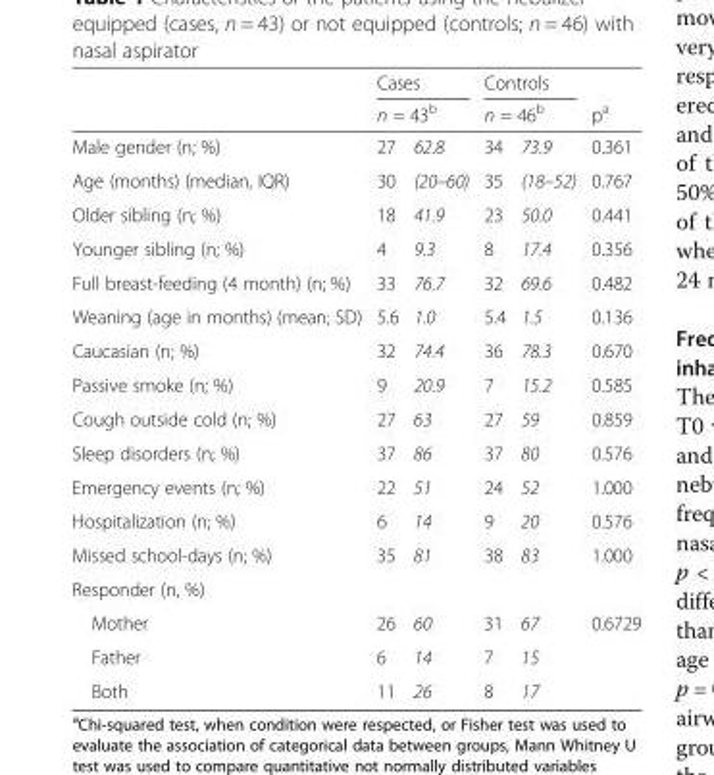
<table><thead><tr><td rowspan="3">Male gender (n; %)</td><td rowspan="2" colspan="2">Cases n = 43<sup>b</sup></td><td rowspan="2" colspan="2">Controls n = 46<sup>b</sup></td><td rowspan="3">p<sup>a</sup> 0.361</td></tr><tr></tr><tr><td>27</td><td>62.8</td><td>34</td><td>73.9</td></tr></thead><tbody><tr><td>Age (months) (median, IQR)</td><td>30</td><td>(20–60)</td><td>35</td><td>(18–52)</td><td>0.767</td></tr><tr><td>Older sibling (n; %)</td><td>18</td><td>41.9</td><td>23</td><td>50.0</td><td>0.441</td></tr><tr><td>Younger sibling (n; %)</td><td>4</td><td>9.3</td><td>8</td><td>17.4</td><td>0.356</td></tr><tr><td>Full breast-feeding (4 month) (n; %)</td><td>33</td><td>76.7</td><td>32</td><td>69.6</td><td>0.482</td></tr><tr><td>Weaning (age in months) (mean; SD)</td><td>5.6</td><td>1.0</td><td>5.4</td><td>1.5</td><td>0.136</td></tr><tr><td>Caucasian (n; %)</td><td>32</td><td>74.4</td><td>36</td><td>78.3</td><td>0.670</td></tr><tr><td>Passive smoke (n; %)</td><td>9</td><td>20.9</td><td>7</td><td>15.2</td><td>0.585</td></tr><tr><td>Cough outside cold (n; %)</td><td>27</td><td>63</td><td>27</td><td>59</td><td>0.859</td></tr><tr><td>Sleep disorders (n; %)</td><td>37</td><td>86</td><td>37</td><td>80</td><td>0.576</td></tr><tr><td>Emergency events (n; %)</td><td>22</td><td>51</td><td>24</td><td>52</td><td>1.000</td></tr><tr><td>Hospitalization (n; %)</td><td>6</td><td>14</td><td>9</td><td>20</td><td>0.576</td></tr><tr><td>Missed school-days (n; %)</td><td>35</td><td>81</td><td>38</td><td>83</td><td>1.000</td></tr><tr><td colspan="6">Responder (n, %)</td></tr><tr><td>Mother</td><td>26</td><td>60</td><td>31</td><td>67</td><td rowspan="3">0.6729</td></tr><tr><td>Father</td><td>6</td><td>14</td><td>7</td><td>15</td></tr><tr><td>Both</td><td>11</td><td>26</td><td>8</td><td>17</td></tr></tbody></table>